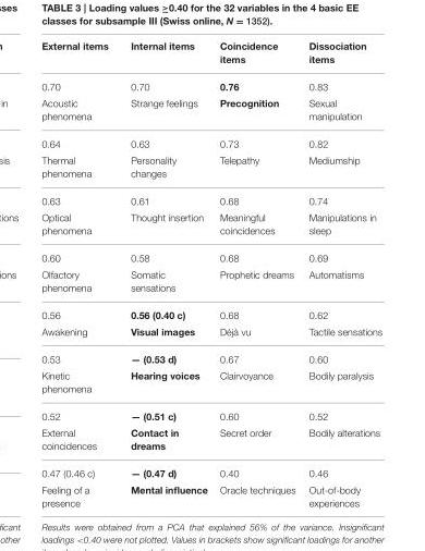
<table><thead><tr><td>External items</td><td>Internal items</td><td>Coincidence items</td><td>Dissociation items</td></tr></thead><tbody><tr><td>0.70</td><td>0.70</td><td>0.76</td><td>0.83</td></tr><tr><td>Acoustic phenomena</td><td>Strange feelings</td><td>Precognition</td><td>Sexual manipulation</td></tr><tr><td>0.64</td><td>0.63</td><td>0.73</td><td>0.82</td></tr><tr><td>Thermal phenomena</td><td>Personality changes</td><td>Telepathy</td><td>Mediumship</td></tr><tr><td>0.63</td><td>0.61</td><td>0.68</td><td>0.74</td></tr><tr><td>Optical phenomena</td><td>Thought insertion</td><td>Meaningful coincidences</td><td>Manipulations in sleep</td></tr><tr><td>0.60</td><td>0.58</td><td>0.68</td><td>0.69</td></tr><tr><td>Olfactory phenomena</td><td>Somatic sensations</td><td>Prophetic dreams</td><td>Automatisms</td></tr><tr><td>0.56</td><td>0.56 (0.40 c)</td><td>0.68</td><td>0.62</td></tr><tr><td>Awakening</td><td>Visual images</td><td>Déjà vu</td><td>Tactile sensations</td></tr><tr><td>0.53</td><td>— (0.53 d)</td><td>0.67</td><td>0.60</td></tr><tr><td>Kinetic phenomena</td><td>Hearing voices</td><td>Clairvoyance</td><td>Bodily paralysis</td></tr><tr><td>0.52</td><td>— (0.51 c)</td><td>0.60</td><td>0.52</td></tr><tr><td>External coincidences</td><td>Contact in dreams</td><td>Secret order</td><td>Bodily alterations</td></tr><tr><td>0.47 (0.46 c)</td><td>— (0.47 d)</td><td>0.40</td><td>0.46</td></tr><tr><td>Feeling of a presence</td><td>Mental influence</td><td>Oracle techniques</td><td>Out-of-body experiences</td></tr></tbody></table>